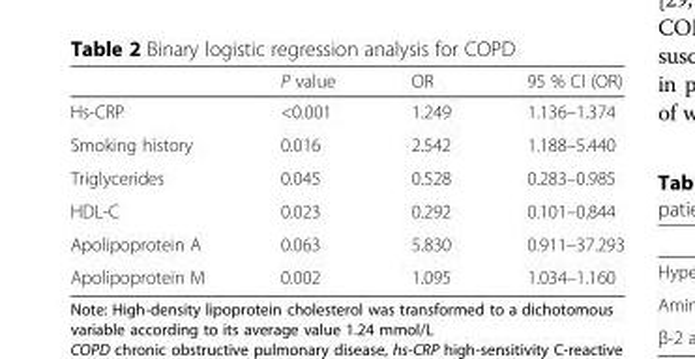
<table><thead><tr><td></td><td>P value</td><td>OR</td><td>95 % CI (OR)</td></tr></thead><tbody><tr><td>Hs-CRP</td><td>&lt;0.001</td><td>1.249</td><td>1.136–1.374</td></tr><tr><td>Smoking history</td><td>0.016</td><td>2.542</td><td>1.188–5.440</td></tr><tr><td>Triglycerides</td><td>0.045</td><td>0.528</td><td>0.283–0.985</td></tr><tr><td>HDL-C</td><td>0.023</td><td>0.292</td><td>0.101–0.844</td></tr><tr><td>Apolipoprotein A</td><td>0.063</td><td>5.830</td><td>0.911–37.293</td></tr><tr><td>Apolipoprotein M</td><td>0.002</td><td>1.095</td><td>1.034–1.160</td></tr></tbody></table>